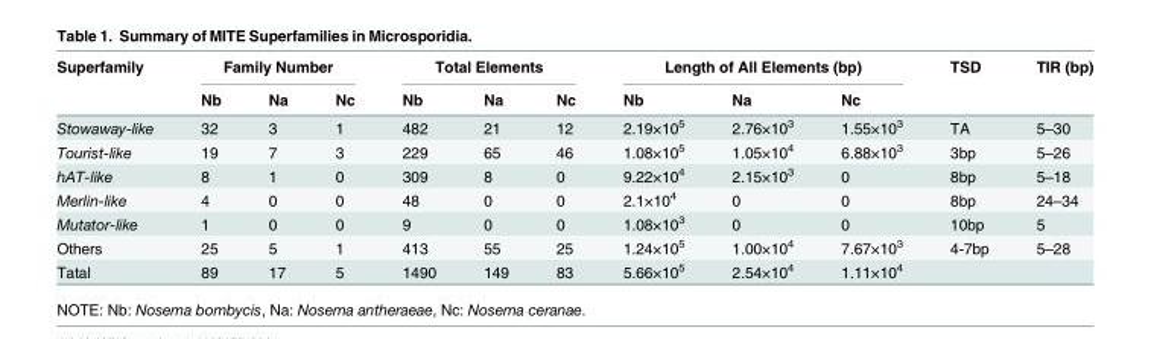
<table><thead><tr><td rowspan="2">Superfamily</td><td colspan="3">Family Number</td><td colspan="3">Total Elements</td><td colspan="3">Length of All Elements (bp)</td><td rowspan="2">TSD</td><td rowspan="2">TIR (bp)</td></tr><tr><td>Nb</td><td>Na</td><td>Nc</td><td>Nb</td><td>Na</td><td>Nc</td><td>Nb</td><td>Na</td><td>Nc</td></tr></thead><tbody><tr><td>Stowaway-like</td><td>32</td><td>3</td><td>1</td><td>482</td><td>21</td><td>12</td><td>2.19×10<sup>5</sup></td><td>2.76×10<sup>3</sup></td><td>1.55×10<sup>3</sup></td><td>TA</td><td>5–30</td></tr><tr><td>Tourist-like</td><td>19</td><td>7</td><td>3</td><td>229</td><td>65</td><td>46</td><td>1.08×10<sup>5</sup></td><td>1.05×10<sup>4</sup></td><td>6.88×10<sup>3</sup></td><td>3bp</td><td>5–26</td></tr><tr><td>hAT-like</td><td>8</td><td>1</td><td>0</td><td>309</td><td>8</td><td>0</td><td>9.22×10<sup>4</sup></td><td>2.15×10<sup>3</sup></td><td>0</td><td>8bp</td><td>5–18</td></tr><tr><td>Merlin-like</td><td>4</td><td>0</td><td>0</td><td>48</td><td>0</td><td>0</td><td>2.1×10<sup>4</sup></td><td>0</td><td>0</td><td>8bp</td><td>24–34</td></tr><tr><td>Mutator-like</td><td>1</td><td>0</td><td>0</td><td>9</td><td>0</td><td>0</td><td>1.08×10<sup>3</sup></td><td>0</td><td>0</td><td>10bp</td><td>5</td></tr><tr><td>Others</td><td>25</td><td>5</td><td>1</td><td>413</td><td>55</td><td>25</td><td>1.24×10<sup>5</sup></td><td>1.00×10<sup>4</sup></td><td>7.67×10<sup>3</sup></td><td>4-7bp</td><td>5–28</td></tr><tr><td>Tatal</td><td>89</td><td>17</td><td>5</td><td>1490</td><td>149</td><td>83</td><td>5.66×10<sup>5</sup></td><td>2.54×10<sup>4</sup></td><td>1.11×10<sup>4</sup></td><td></td><td></td></tr></tbody></table>